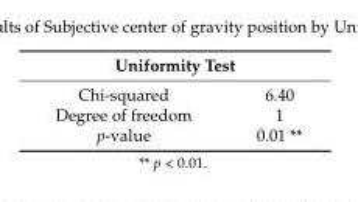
<table><thead><tr><td colspan="2">Uniformity Test</td></tr><tr><td>Chi-squared</td><td>6.40</td></tr></thead><tbody><tr><td>Degree of freedom</td><td>1</td></tr><tr><td>p-value</td><td>0.01 **</td></tr></tbody></table>